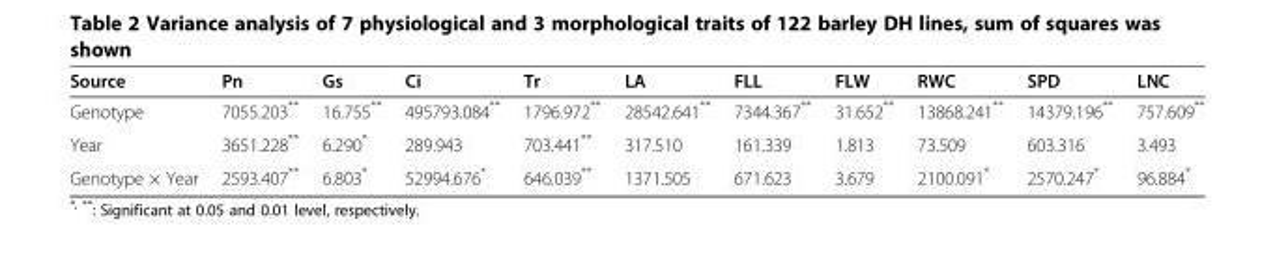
<table><thead><tr><td>Source</td><td>Pn</td><td>Gs</td><td>Ci</td><td>Tr</td><td>LA</td><td>FLL</td><td>FLW</td><td>RWC</td><td>SPD</td><td>LNC</td></tr></thead><tbody><tr><td>Genotype</td><td>7055.203**</td><td>16.755**</td><td>495793.084**</td><td>1796.972**</td><td>28542.641**</td><td>7344.367**</td><td>31.652**</td><td>13868.241**</td><td>14379.196**</td><td>757.609**</td></tr><tr><td>Year</td><td>3651.228**</td><td>6.290*</td><td>289.943</td><td>703.441**</td><td>317.510</td><td>161.339</td><td>1.813</td><td>73.509</td><td>603.316</td><td>3.493</td></tr><tr><td>Genotype × Year</td><td>2593.407**</td><td>6.803*</td><td>52994.676*</td><td>646.039**</td><td>1371.505</td><td>671.623</td><td>3.679</td><td>2100.091*</td><td>2570.247*</td><td>96.884*</td></tr></tbody></table>